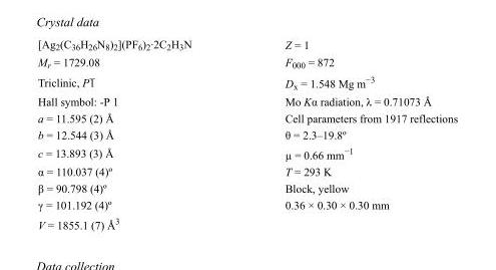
<table><tbody><tr><td>[Ag<sub>2</sub>(C<sub>36</sub>H<sub>26</sub>N<sub>8</sub>)<sub>2</sub>](PF<sub>6</sub>)<sub>2</sub>·2C<sub>2</sub>H<sub>3</sub>N</td><td>Z = 1</td></tr><tr><td>M<sub>r</sub> = 1729.08</td><td>F000 = 872</td></tr><tr><td>Triclinic, P1</td><td>D<sub>x</sub> = 1.548 Mg m<sup>−3</sup></td></tr><tr><td>Hall symbol: -P 1</td><td>Mo Kα radiation, λ = 0.71073 Å</td></tr><tr><td>a = 11.595 (2) Å</td><td>Cell parameters from 1917 reflections</td></tr><tr><td>b = 12.544 (3) Å</td><td>θ = 2.3–19.8º</td></tr><tr><td>c = 13.893 (3) Å</td><td>µ = 0.66 mm<sup>−1</sup></td></tr><tr><td>α = 110.037 (4)º</td><td>T = 293 K</td></tr><tr><td>β = 90.798 (4)º</td><td>Block, yellow</td></tr><tr><td>γ = 101.192 (4)º</td><td>0.36 × 0.30 × 0.30 mm</td></tr><tr><td>V = 1855.1 (7) Å<sup>3</sup></td><td></td></tr></tbody></table>